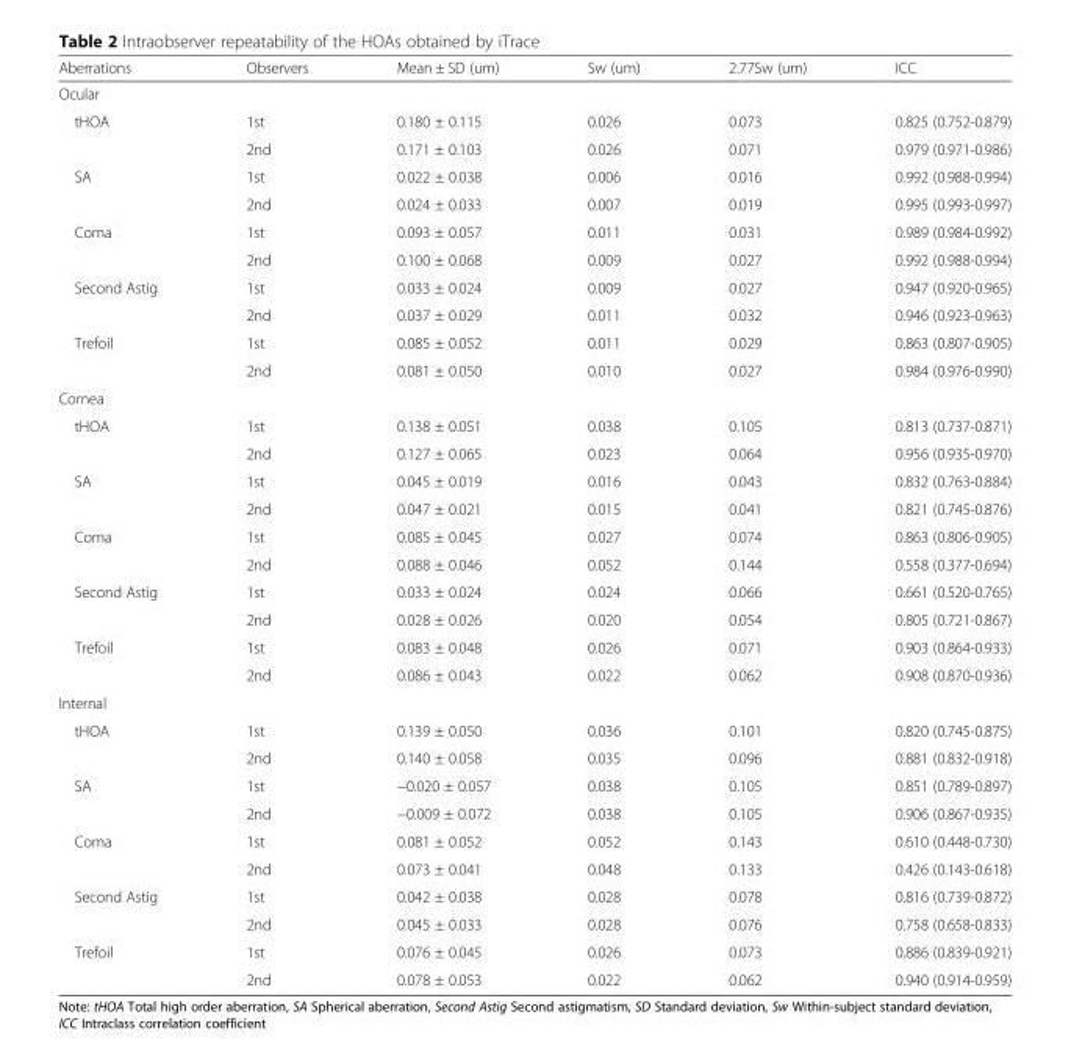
<table><thead><tr><td>Aberrations</td><td>Observers</td><td>Mean ± SD (um)</td><td>Sw (um)</td><td>2.77Sw (um)</td><td>ICC</td></tr></thead><tbody><tr><td colspan="6">Ocular</td></tr><tr><td rowspan="2">tHOA</td><td>1st</td><td>0.180 ± 0.115</td><td>0.026</td><td>0.073</td><td>0.825 (0.752-0.879)</td></tr><tr><td>2nd</td><td>0.171 ± 0.103</td><td>0.026</td><td>0.071</td><td>0.979 (0.971-0.986)</td></tr><tr><td rowspan="2">SA</td><td>1st</td><td>0.022 ± 0.038</td><td>0.006</td><td>0.016</td><td>0.992 (0.988-0.994)</td></tr><tr><td>2nd</td><td>0.024 ± 0.033</td><td>0.007</td><td>0.019</td><td>0.995 (0.993-0.997)</td></tr><tr><td rowspan="2">Coma</td><td>1st</td><td>0.093 ± 0.057</td><td>0.011</td><td>0.031</td><td>0.989 (0.984-0.992)</td></tr><tr><td>2nd</td><td>0.100 ± 0.068</td><td>0.009</td><td>0.027</td><td>0.992 (0.988-0.994)</td></tr><tr><td rowspan="2">Second Astig</td><td>1st</td><td>0.033 ± 0.024</td><td>0.009</td><td>0.027</td><td>0.947 (0.920-0.965)</td></tr><tr><td>2nd</td><td>0.037 ± 0.029</td><td>0.011</td><td>0.032</td><td>0.946 (0.923-0.963)</td></tr><tr><td rowspan="2">Trefoil</td><td>1st</td><td>0.085 ± 0.052</td><td>0.011</td><td>0.029</td><td>0.863 (0.807-0.905)</td></tr><tr><td>2nd</td><td>0.081 ± 0.050</td><td>0.010</td><td>0.027</td><td>0.984 (0.976-0.990)</td></tr><tr><td colspan="6">Cornea</td></tr><tr><td rowspan="2">tHOA</td><td>1st</td><td>0.138 ± 0.051</td><td>0.038</td><td>0.105</td><td>0.813 (0.737-0.871)</td></tr><tr><td>2nd</td><td>0.127 ± 0.065</td><td>0.023</td><td>0.064</td><td>0.956 (0.935-0.970)</td></tr><tr><td rowspan="2">SA</td><td>1st</td><td>0.045 ± 0.019</td><td>0.016</td><td>0.043</td><td>0.832 (0.763-0.884)</td></tr><tr><td>2nd</td><td>0.047 ± 0.021</td><td>0.015</td><td>0.041</td><td>0.821 (0.745-0.876)</td></tr><tr><td rowspan="2">Coma</td><td>1st</td><td>0.085 ± 0.045</td><td>0.027</td><td>0.074</td><td>0.863 (0.806-0.905)</td></tr><tr><td>2nd</td><td>0.088 ± 0.046</td><td>0.052</td><td>0.144</td><td>0.558 (0.377-0.694)</td></tr><tr><td rowspan="2">Second Astig</td><td>1st</td><td>0.033 ± 0.024</td><td>0.024</td><td>0.066</td><td>0.661 (0.520-0.765)</td></tr><tr><td>2nd</td><td>0.028 ± 0.026</td><td>0.020</td><td>0.054</td><td>0.805 (0.721-0.867)</td></tr><tr><td rowspan="2">Trefoil</td><td>1st</td><td>0.083 ± 0.048</td><td>0.026</td><td>0.071</td><td>0.903 (0.864-0.933)</td></tr><tr><td>2nd</td><td>0.086 ± 0.043</td><td>0.022</td><td>0.062</td><td>0.908 (0.870-0.936)</td></tr><tr><td colspan="6">Internal</td></tr><tr><td rowspan="2">tHOA</td><td>1st</td><td>0.139 ± 0.050</td><td>0.036</td><td>0.101</td><td>0.820 (0.745-0.875)</td></tr><tr><td>2nd</td><td>0.140 ± 0.058</td><td>0.035</td><td>0.096</td><td>0.881 (0.832-0.918)</td></tr><tr><td rowspan="2">SA</td><td>1st</td><td>−0.020 ± 0.057</td><td>0.038</td><td>0.105</td><td>0.851 (0.789-0.897)</td></tr><tr><td>2nd</td><td>−0.009 ± 0.072</td><td>0.038</td><td>0.105</td><td>0.906 (0.867-0.935)</td></tr><tr><td rowspan="2">Coma</td><td>1st</td><td>0.081 ± 0.052</td><td>0.052</td><td>0.143</td><td>0.610 (0.448-0.730)</td></tr><tr><td>2nd</td><td>0.073 ± 0.041</td><td>0.048</td><td>0.133</td><td>0.426 (0.143-0.618)</td></tr><tr><td rowspan="2">Second Astig</td><td>1st</td><td>0.042 ± 0.038</td><td>0.028</td><td>0.078</td><td>0.816 (0.739-0.872)</td></tr><tr><td>2nd</td><td>0.045 ± 0.033</td><td>0.028</td><td>0.076</td><td>0.758 (0.658-0.833)</td></tr><tr><td rowspan="2">Trefoil</td><td>1st</td><td>0.076 ± 0.045</td><td>0.026</td><td>0.073</td><td>0.886 (0.839-0.921)</td></tr><tr><td>2nd</td><td>0.078 ± 0.053</td><td>0.022</td><td>0.062</td><td>0.940 (0.914-0.959)</td></tr></tbody></table>